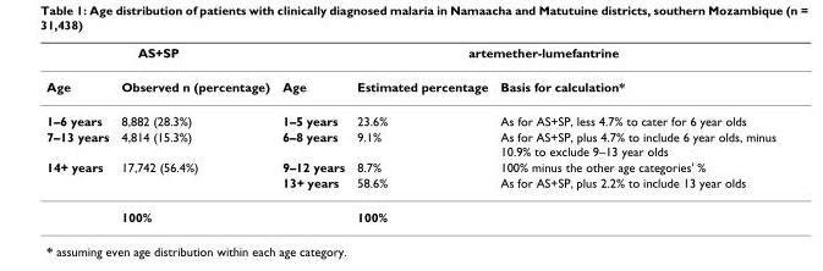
<table><thead><tr><td colspan="2">AS+SP</td><td colspan="3">artemether-lumefantrine</td></tr><tr><td>Age</td><td>Observed n (percentage)</td><td>Age</td><td>Estimated percentage</td><td>Basis for calculation*</td></tr></thead><tbody><tr><td>1–6 years</td><td>8,882 (28.3%)</td><td>1–5 years</td><td>23.6%</td><td>As for AS+SP, less 4.7% to cater for 6 year olds</td></tr><tr><td>7–13 years</td><td>4,814 (15.3%)</td><td>6–8 years</td><td>9.1%</td><td>As for AS+SP, plus 4.7% to include 6 year olds, minus 10.9% to exclude 9–13 year olds</td></tr><tr><td rowspan="3">14+ years</td><td>17,742 (56.4%)</td><td>9–12 years</td><td>8.7%</td><td>100% minus the other age categories&#x27; %</td></tr><tr><td></td><td>13+ years</td><td>58.6%</td><td>As for AS+SP, plus 2.2% to include 13 year olds</td></tr><tr><td>100%</td><td></td><td>100%</td><td></td></tr></tbody></table>